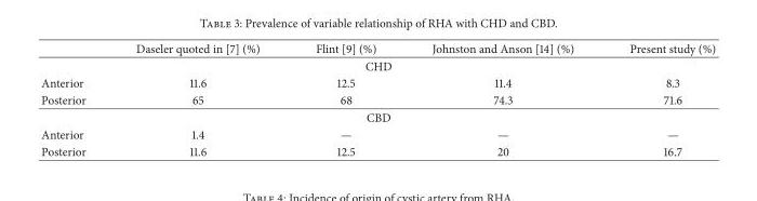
<table><thead><tr><td></td><td>Daseler quoted in [7] (%)</td><td>Flint [9] (%)</td><td>Johnston and Anson [14] (%)</td><td>Present study (%)</td></tr></thead><tbody><tr><td colspan="5">CHD</td></tr><tr><td>Anterior</td><td>11.6</td><td>12.5</td><td>11.4</td><td>8.3</td></tr><tr><td>Posterior</td><td>65</td><td>68</td><td>74.3</td><td>71.6</td></tr><tr><td colspan="5">CBD</td></tr><tr><td>Anterior</td><td>1.4</td><td>—</td><td>—</td><td>—</td></tr><tr><td>Posterior</td><td>11.6</td><td>12.5</td><td>20</td><td>16.7</td></tr></tbody></table>